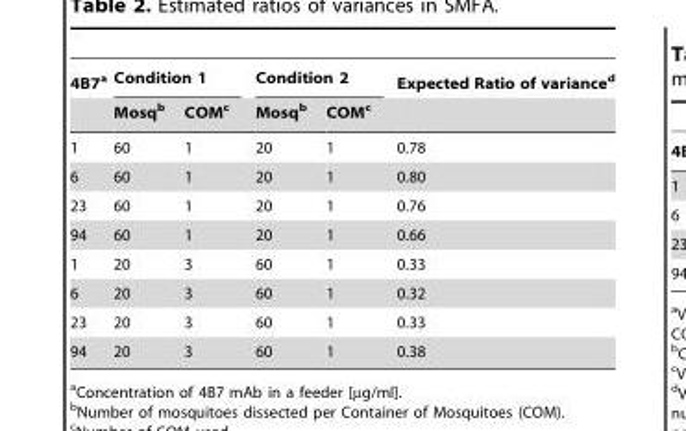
<table><thead><tr><td rowspan="2">4B7<sup>a</sup></td><td colspan="2">Condition 1</td><td colspan="2">Condition 2</td><td rowspan="2">Expected Ratio of variance<sup>d</sup></td></tr><tr><td>Mosq<sup>b</sup></td><td>COM<sup>c</sup></td><td>Mosq<sup>b</sup></td><td>COM<sup>c</sup></td></tr></thead><tbody><tr><td>1</td><td>60</td><td>1</td><td>20</td><td>1</td><td>0.78</td></tr><tr><td>6</td><td>60</td><td>1</td><td>20</td><td>1</td><td>0.80</td></tr><tr><td>23</td><td>60</td><td>1</td><td>20</td><td>1</td><td>0.76</td></tr><tr><td>94</td><td>60</td><td>1</td><td>20</td><td>1</td><td>0.66</td></tr><tr><td>1</td><td>20</td><td>3</td><td>60</td><td>1</td><td>0.33</td></tr><tr><td>6</td><td>20</td><td>3</td><td>60</td><td>1</td><td>0.32</td></tr><tr><td>23</td><td>20</td><td>3</td><td>60</td><td>1</td><td>0.33</td></tr><tr><td>94</td><td>20</td><td>3</td><td>60</td><td>1</td><td>0.38</td></tr></tbody></table>